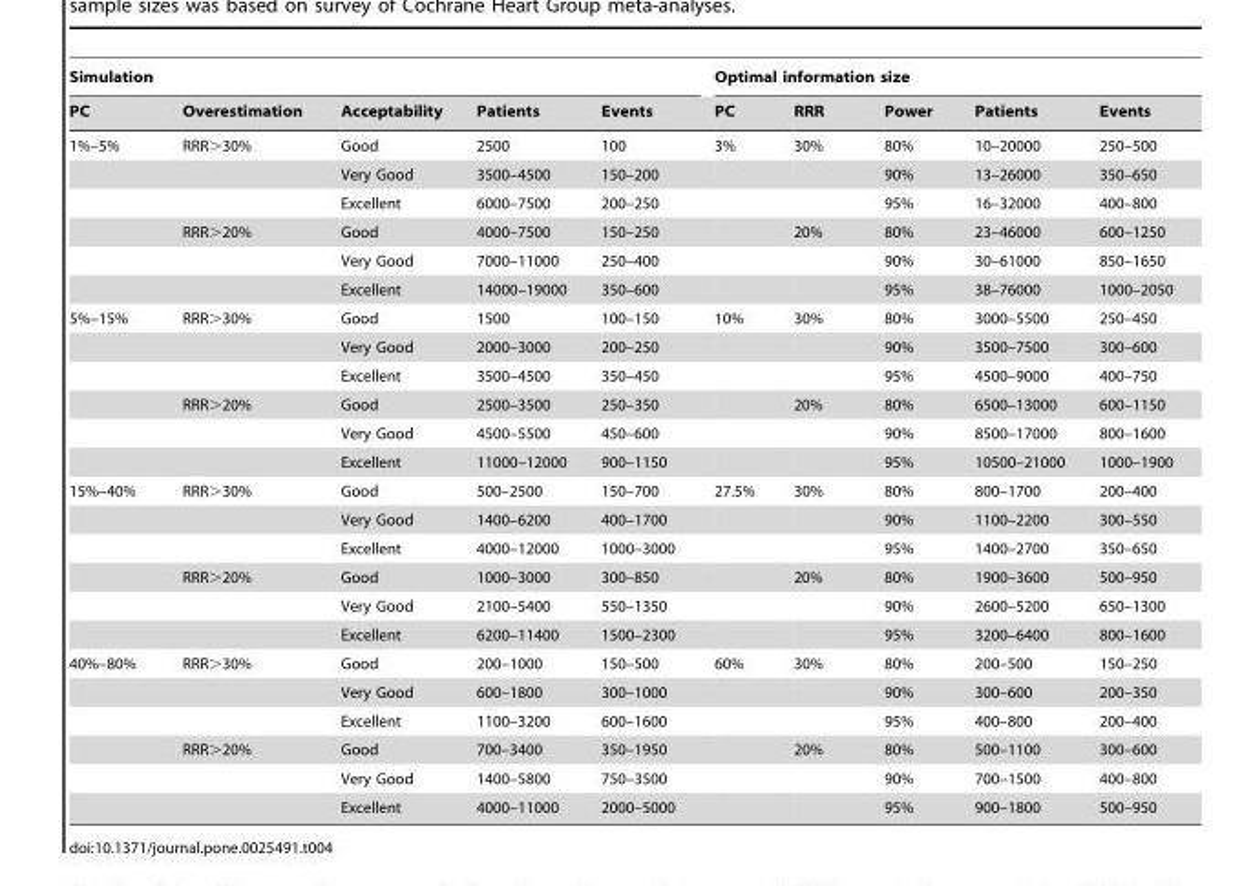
<table><thead><tr><td colspan="5">Simulation</td><td colspan="5">Optimal information size</td></tr><tr><td>PC</td><td>Overestimation</td><td>Acceptability</td><td>Patients</td><td>Events</td><td>PC</td><td>RRR</td><td>Power</td><td>Patients</td><td>Events</td></tr></thead><tbody><tr><td rowspan="6">1%–5%</td><td>RRR&gt;30%</td><td>Good</td><td>2500</td><td>100</td><td>3%</td><td>30%</td><td>80%</td><td>10–20000</td><td>250–500</td></tr><tr><td></td><td>Very Good</td><td>3500–4500</td><td>150–200</td><td></td><td></td><td>90%</td><td>13–26000</td><td>350–650</td></tr><tr><td></td><td>Excellent</td><td>6000–7500</td><td>200–250</td><td></td><td></td><td>95%</td><td>16–32000</td><td>400–800</td></tr><tr><td>RRR&gt;20%</td><td>Good</td><td>4000–7500</td><td>150–250</td><td></td><td>20%</td><td>80%</td><td>23–46000</td><td>600–1250</td></tr><tr><td></td><td>Very Good</td><td>7000–11000</td><td>250–400</td><td></td><td></td><td>90%</td><td>30–61000</td><td>850–1650</td></tr><tr><td></td><td>Excellent</td><td>14000–19000</td><td>350–600</td><td></td><td></td><td>95%</td><td>38–76000</td><td>1000–2050</td></tr><tr><td rowspan="6">5%–15%</td><td>RRR&gt;30%</td><td>Good</td><td>1500</td><td>100–150</td><td>10%</td><td>30%</td><td>80%</td><td>3000–5500</td><td>250–450</td></tr><tr><td></td><td>Very Good</td><td>2000–3000</td><td>200–250</td><td></td><td></td><td>90%</td><td>3500–7500</td><td>300–600</td></tr><tr><td></td><td>Excellent</td><td>3500–4500</td><td>350–450</td><td></td><td></td><td>95%</td><td>4500–9000</td><td>400–750</td></tr><tr><td>RRR&gt;20%</td><td>Good</td><td>2500–3500</td><td>250–350</td><td></td><td>20%</td><td>80%</td><td>6500–13000</td><td>600–1150</td></tr><tr><td></td><td>Very Good</td><td>4500–5500</td><td>450–600</td><td></td><td></td><td>90%</td><td>8500–17000</td><td>800–1600</td></tr><tr><td></td><td>Excellent</td><td>11000–12000</td><td>900–1150</td><td></td><td></td><td>95%</td><td>10500–21000</td><td>1000–1900</td></tr><tr><td rowspan="6">15%–40%</td><td>RRR&gt;30%</td><td>Good</td><td>500–2500</td><td>150–700</td><td>27.5%</td><td>30%</td><td>80%</td><td>800–1700</td><td>200–400</td></tr><tr><td></td><td>Very Good</td><td>1400–6200</td><td>400–1700</td><td></td><td></td><td>90%</td><td>1100–2200</td><td>300–550</td></tr><tr><td></td><td>Excellent</td><td>4000–12000</td><td>1000–3000</td><td></td><td></td><td>95%</td><td>1400–2700</td><td>350–650</td></tr><tr><td>RRR&gt;20%</td><td>Good</td><td>1000–3000</td><td>300–850</td><td></td><td>20%</td><td>80%</td><td>1900–3600</td><td>500–950</td></tr><tr><td></td><td>Very Good</td><td>2100–5400</td><td>550–1350</td><td></td><td></td><td>90%</td><td>2600–5200</td><td>650–1300</td></tr><tr><td></td><td>Excellent</td><td>6200–11400</td><td>1500–2300</td><td></td><td></td><td>95%</td><td>3200–6400</td><td>800–1600</td></tr><tr><td rowspan="6">40%–80%</td><td>RRR&gt;30%</td><td>Good</td><td>200–1000</td><td>150–500</td><td>60%</td><td>30%</td><td>80%</td><td>200–500</td><td>150–250</td></tr><tr><td></td><td>Very Good</td><td>600–1800</td><td>300–1000</td><td></td><td></td><td>90%</td><td>300–600</td><td>200–350</td></tr><tr><td></td><td>Excellent</td><td>1100–3200</td><td>600–1600</td><td></td><td></td><td>95%</td><td>400–800</td><td>200–400</td></tr><tr><td>RRR&gt;20%</td><td>Good</td><td>700–3400</td><td>350–1950</td><td></td><td>20%</td><td>80%</td><td>500–1100</td><td>300–600</td></tr><tr><td></td><td>Very Good</td><td>1400–5800</td><td>750–3500</td><td></td><td></td><td>90%</td><td>700–1500</td><td>400–800</td></tr><tr><td></td><td>Excellent</td><td>4000–11000</td><td>2000–5000</td><td></td><td></td><td>95%</td><td>900–1800</td><td>500–950</td></tr></tbody></table>